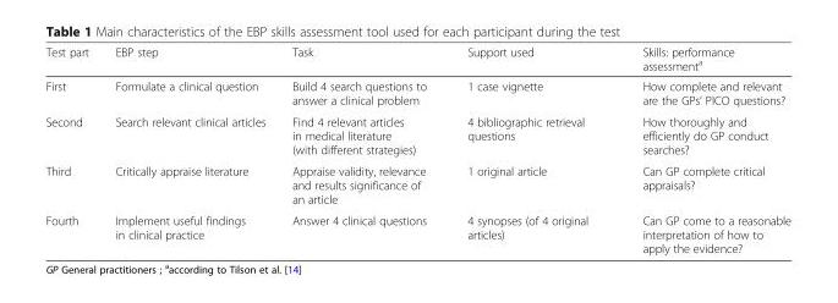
<table><thead><tr><td>Test part</td><td>EBP step</td><td>Task</td><td>Support used</td><td>Skills: performance assessment<sup>a</sup></td></tr></thead><tbody><tr><td>First</td><td>Formulate a clinical question</td><td>Build 4 search questions to answer a clinical problem</td><td>1 case vignette</td><td>How complete and relevant are the GPs’ PICO questions?</td></tr><tr><td>Second</td><td>Search relevant clinical articles</td><td>Find 4 relevant articles in medical literature (with different strategies)</td><td>4 bibliographic retrieval questions</td><td>How thoroughly and efficiently do GP conduct searches?</td></tr><tr><td>Third</td><td>Critically appraise literature</td><td>Appraise validity, relevance and results significance of an article</td><td>1 original article</td><td>Can GP complete critical appraisals?</td></tr><tr><td>Fourth</td><td>Implement useful findings in clinical practice</td><td>Answer 4 clinical questions</td><td>4 synopses (of 4 original articles)</td><td>Can GP come to a reasonable interpretation of how to apply the evidence?</td></tr></tbody></table>